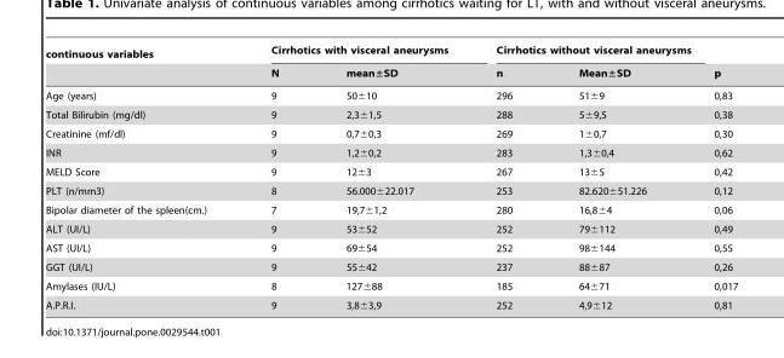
<table><thead><tr><td rowspan="2">continuous variables</td><td colspan="2">Cirrhotics with visceral aneurysms</td><td colspan="2">Cirrhotics without visceral aneurysms</td><td rowspan="2">p</td></tr><tr><td>N</td><td>mean±SD</td><td>n</td><td>Mean±SD</td></tr></thead><tbody><tr><td>Age (years)</td><td>9</td><td>50±10</td><td>296</td><td>51±9</td><td>0,83</td></tr><tr><td>Total Bilirubin (mg/dl)</td><td>9</td><td>2,3±1,5</td><td>288</td><td>5±9,5</td><td>0,38</td></tr><tr><td>Creatinine (mf/dl)</td><td>9</td><td>0,7±0,3</td><td>269</td><td>1±0,7</td><td>0,30</td></tr><tr><td>INR</td><td>9</td><td>1,2±0,2</td><td>283</td><td>1,3±0,4</td><td>0,62</td></tr><tr><td>MELD Score</td><td>9</td><td>12±3</td><td>267</td><td>13±5</td><td>0,42</td></tr><tr><td>PLT (n/mm3)</td><td>8</td><td>56.000±22.017</td><td>253</td><td>82.620±51.226</td><td>0,12</td></tr><tr><td>Bipolar diameter of the spleen(cm.)</td><td>7</td><td>19,7±1,2</td><td>280</td><td>16,8±4</td><td>0,06</td></tr><tr><td>ALT (UI/L)</td><td>9</td><td>53±52</td><td>252</td><td>79±112</td><td>0,49</td></tr><tr><td>AST (UI/L)</td><td>9</td><td>69±54</td><td>252</td><td>98±144</td><td>0,55</td></tr><tr><td>GGT (UI/L)</td><td>9</td><td>55±42</td><td>237</td><td>88±87</td><td>0,26</td></tr><tr><td>Amylases (IU/L)</td><td>8</td><td>127±88</td><td>185</td><td>64±71</td><td>0,017</td></tr><tr><td>A.P.R.I.</td><td>9</td><td>3,8±3,9</td><td>252</td><td>4,9±12</td><td>0,81</td></tr></tbody></table>